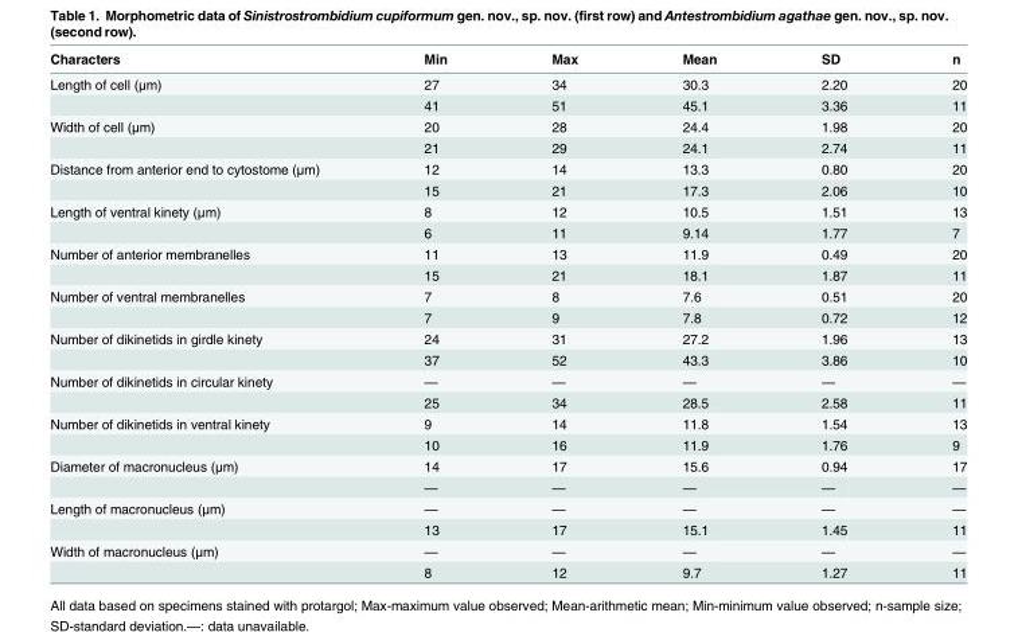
<table><thead><tr><td>Characters</td><td>Min</td><td>Max</td><td>Mean</td><td>SD</td><td>n</td></tr></thead><tbody><tr><td rowspan="2">Length of cell (μm)</td><td>27</td><td>34</td><td>30.3</td><td>2.20</td><td>20</td></tr><tr><td>41</td><td>51</td><td>45.1</td><td>3.36</td><td>11</td></tr><tr><td rowspan="2">Width of cell (μm)</td><td>20</td><td>28</td><td>24.4</td><td>1.98</td><td>20</td></tr><tr><td>21</td><td>29</td><td>24.1</td><td>2.74</td><td>11</td></tr><tr><td rowspan="2">Distance from anterior end to cytostome (μm)</td><td>12</td><td>14</td><td>13.3</td><td>0.80</td><td>20</td></tr><tr><td>15</td><td>21</td><td>17.3</td><td>2.06</td><td>10</td></tr><tr><td rowspan="2">Length of ventral kinety (μm)</td><td>8</td><td>12</td><td>10.5</td><td>1.51</td><td>13</td></tr><tr><td>6</td><td>11</td><td>9.14</td><td>1.77</td><td>7</td></tr><tr><td rowspan="2">Number of anterior membranelles</td><td>11</td><td>13</td><td>11.9</td><td>0.49</td><td>20</td></tr><tr><td>15</td><td>21</td><td>18.1</td><td>1.87</td><td>11</td></tr><tr><td rowspan="2">Number of ventral membranelles</td><td>7</td><td>8</td><td>7.6</td><td>0.51</td><td>20</td></tr><tr><td>7</td><td>9</td><td>7.8</td><td>0.72</td><td>12</td></tr><tr><td rowspan="2">Number of dikinetids in girdle kinety</td><td>24</td><td>31</td><td>27.2</td><td>1.96</td><td>13</td></tr><tr><td>37</td><td>52</td><td>43.3</td><td>3.86</td><td>10</td></tr><tr><td rowspan="2">Number of dikinetids in circular kinety</td><td>—</td><td>—</td><td>—</td><td>—</td><td>—</td></tr><tr><td>25</td><td>34</td><td>28.5</td><td>2.58</td><td>11</td></tr><tr><td rowspan="2">Number of dikinetids in ventral kinety</td><td>9</td><td>14</td><td>11.8</td><td>1.54</td><td>13</td></tr><tr><td>10</td><td>16</td><td>11.9</td><td>1.76</td><td>9</td></tr><tr><td rowspan="2">Diameter of macronucleus (μm)</td><td>14</td><td>17</td><td>15.6</td><td>0.94</td><td>17</td></tr><tr><td>—</td><td>—</td><td>—</td><td>—</td><td>—</td></tr><tr><td rowspan="2">Length of macronucleus (μm)</td><td>—</td><td>—</td><td>—</td><td>—</td><td>—</td></tr><tr><td>13</td><td>17</td><td>15.1</td><td>1.45</td><td>11</td></tr><tr><td rowspan="2">Width of macronucleus (μm)</td><td>—</td><td>—</td><td>—</td><td>—</td><td>—</td></tr><tr><td>8</td><td>12</td><td>9.7</td><td>1.27</td><td>11</td></tr></tbody></table>